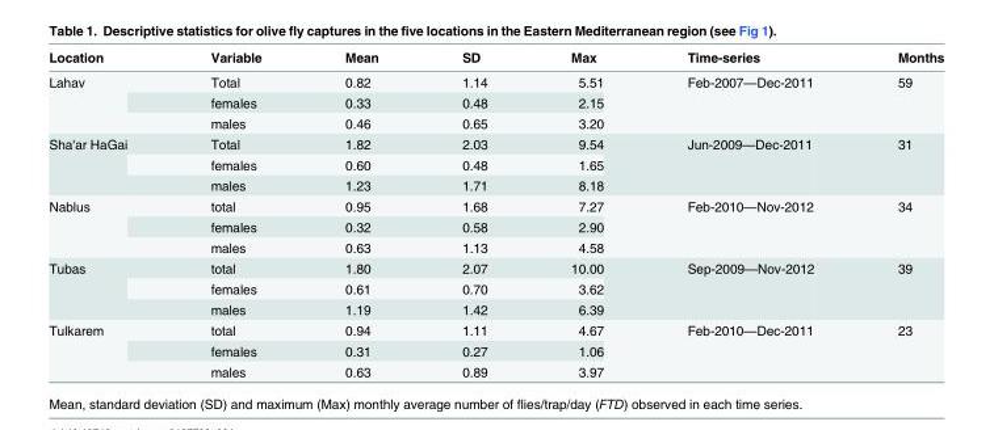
<table><thead><tr><td>Location</td><td>Variable</td><td>Mean</td><td>SD</td><td>Max</td><td>Time-series</td><td>Months</td></tr></thead><tbody><tr><td rowspan="3">Lahav</td><td>Total</td><td>0.82</td><td>1.14</td><td>5.51</td><td rowspan="3">Feb-2007—Dec-2011</td><td rowspan="3">59</td></tr><tr><td>females</td><td>0.33</td><td>0.48</td><td>2.15</td></tr><tr><td>males</td><td>0.46</td><td>0.65</td><td>3.20</td></tr><tr><td rowspan="3">Sha&#x27;ar HaGai</td><td>Total</td><td>1.82</td><td>2.03</td><td>9.54</td><td rowspan="3">Jun-2009—Dec-2011</td><td rowspan="3">31</td></tr><tr><td>females</td><td>0.60</td><td>0.48</td><td>1.65</td></tr><tr><td>males</td><td>1.23</td><td>1.71</td><td>8.18</td></tr><tr><td rowspan="3">Nablus</td><td>total</td><td>0.95</td><td>1.68</td><td>7.27</td><td rowspan="3">Feb-2010—Nov-2012</td><td rowspan="3">34</td></tr><tr><td>females</td><td>0.32</td><td>0.58</td><td>2.90</td></tr><tr><td>males</td><td>0.63</td><td>1.13</td><td>4.58</td></tr><tr><td rowspan="3">Tubas</td><td>total</td><td>1.80</td><td>2.07</td><td>10.00</td><td rowspan="3">Sep-2009—Nov-2012</td><td rowspan="3">39</td></tr><tr><td>females</td><td>0.61</td><td>0.70</td><td>3.62</td></tr><tr><td>males</td><td>1.19</td><td>1.42</td><td>6.39</td></tr><tr><td rowspan="3">Tulkarem</td><td>total</td><td>0.94</td><td>1.11</td><td>4.67</td><td rowspan="3">Feb-2010—Dec-2011</td><td rowspan="3">23</td></tr><tr><td>females</td><td>0.31</td><td>0.27</td><td>1.06</td></tr><tr><td>males</td><td>0.63</td><td>0.89</td><td>3.97</td></tr></tbody></table>